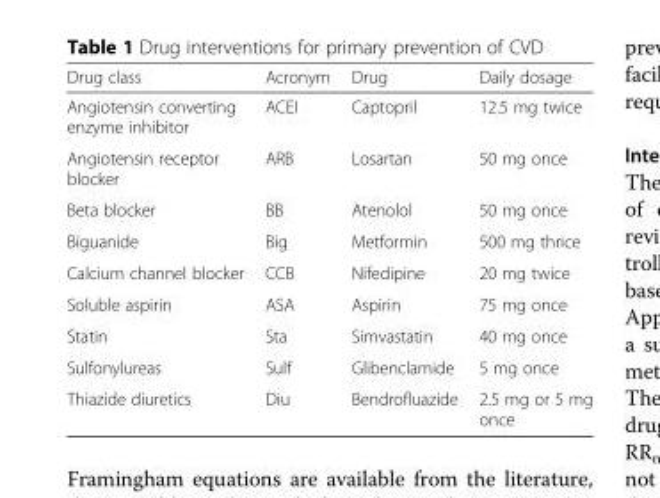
<table><thead><tr><td>Drug class</td><td>Acronym</td><td>Drug</td><td>Daily dosage</td></tr></thead><tbody><tr><td>Angiotensin converting enzyme inhibitor</td><td>ACEI</td><td>Captopril</td><td>12.5 mg twice</td></tr><tr><td>Angiotensin receptor blocker</td><td>ARB</td><td>Losartan</td><td>50 mg once</td></tr><tr><td>Beta blocker</td><td>BB</td><td>Atenolol</td><td>50 mg once</td></tr><tr><td>Biguanide</td><td>Big</td><td>Metformin</td><td>500 mg thrice</td></tr><tr><td>Calcium channel blocker</td><td>CCB</td><td>Nifedipine</td><td>20 mg twice</td></tr><tr><td>Soluble aspirin</td><td>ASA</td><td>Aspirin</td><td>75 mg once</td></tr><tr><td>Statin</td><td>Sta</td><td>Simvastatin</td><td>40 mg once</td></tr><tr><td>Sulfonylureas</td><td>Sulf</td><td>Glibenclamide</td><td>5 mg once</td></tr><tr><td>Thiazide diuretics</td><td>Diu</td><td>Bendrofluazide</td><td>2.5 mg or 5 mg once</td></tr></tbody></table>